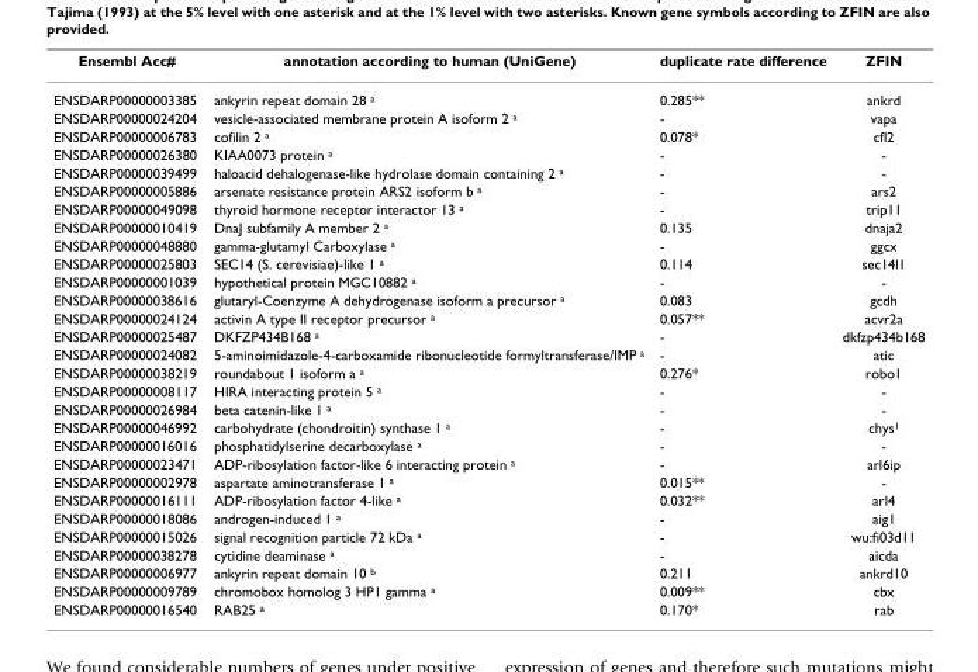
<table><thead><tr><td>Ensembl Acc#</td><td>annotation according to human (UniGene)</td><td>duplicate rate difference</td><td>ZFIN</td></tr></thead><tbody><tr><td>ENSDARP00000003385</td><td>ankyrin repeat domain 28 a</td><td>0.285**</td><td>ankrd</td></tr><tr><td>ENSDARP00000024204</td><td>vesicle-associated membrane protein A isoform 2 a</td><td>-</td><td>vapa</td></tr><tr><td>ENSDARP00000006783</td><td>cofilin 2 a</td><td>0.078*</td><td>cfl2</td></tr><tr><td>ENSDARP00000026380</td><td>KIAA0073 protein a</td><td>-</td><td>-</td></tr><tr><td>ENSDARP00000039499</td><td>haloacid dehalogenase-like hydrolase domain containing 2 a</td><td>-</td><td>-</td></tr><tr><td>ENSDARP00000005886</td><td>arsenate resistance protein ARS2 isoform b a</td><td>-</td><td>ars2</td></tr><tr><td>ENSDARP00000049098</td><td>thyroid hormone receptor interactor 13 a</td><td>-</td><td>trip11</td></tr><tr><td>ENSDARP00000010419</td><td>DnaJ subfamily A member 2 a</td><td>0.135</td><td>dnaja2</td></tr><tr><td>ENSDARP00000048880</td><td>gamma-glutamyl Carboxylase a</td><td>-</td><td>ggcx</td></tr><tr><td>ENSDARP00000025803</td><td>SEC14 (S. cerevisiae)-like 1 a</td><td>0.114</td><td>sec14l1</td></tr><tr><td>ENSDARP00000001039</td><td>hypothetical protein MGC10882 a</td><td>-</td><td>-</td></tr><tr><td>ENSDARP00000038616</td><td>glutaryl-Coenzyme A dehydrogenase isoform a precursor a</td><td>0.083</td><td>gcdh</td></tr><tr><td>ENSDARP00000024124</td><td>activin A type II receptor precursor a</td><td>0.057**</td><td>acvr2a</td></tr><tr><td>ENSDARP00000025487</td><td>DKFZP434B168 a</td><td>-</td><td>dkfzp434b168</td></tr><tr><td>ENSDARP00000024082</td><td>5-aminoimidazole-4-carboxamide ribonucleotide formyltransferase/IMP a</td><td>-</td><td>atic</td></tr><tr><td>ENSDARP00000038219</td><td>roundabout 1 isoform a a</td><td>0.276*</td><td>robo1</td></tr><tr><td>ENSDARP00000008117</td><td>HIRA interacting protein 5 a</td><td>-</td><td>-</td></tr><tr><td>ENSDARP00000026984</td><td>beta catenin-like 1 a</td><td>-</td><td>-</td></tr><tr><td>ENSDARP00000046992</td><td>carbohydrate (chondroitin) synthase 1 a</td><td>-</td><td>chys1</td></tr><tr><td>ENSDARP00000016016</td><td>phosphatidylserine decarboxylase a</td><td>-</td><td>-</td></tr><tr><td>ENSDARP00000023471</td><td>ADP-ribosylation factor-like 6 interacting protein a</td><td>-</td><td>arl6ip</td></tr><tr><td>ENSDARP00000002978</td><td>aspartate aminotransferase 1 a</td><td>0.015**</td><td>-</td></tr><tr><td>ENSDARP00000016111</td><td>ADP-ribosylation factor 4-like a</td><td>0.032**</td><td>arl4</td></tr><tr><td>ENSDARP00000018086</td><td>androgen-induced 1 a</td><td>-</td><td>aig1</td></tr><tr><td>ENSDARP00000015026</td><td>signal recognition particle 72 kDa a</td><td>-</td><td>wu:fi03d11</td></tr><tr><td>ENSDARP00000038278</td><td>cytidine deaminase a</td><td>-</td><td>aicda</td></tr><tr><td>ENSDARP00000006977</td><td>ankyrin repeat domain 10 b</td><td>0.211</td><td>ankrd10</td></tr><tr><td>ENSDARP00000009789</td><td>chromobox homolog 3 HP1 gamma a</td><td>0.009**</td><td>cbx</td></tr><tr><td>ENSDARP00000016540</td><td>RAB25 a</td><td>0.170*</td><td>rab</td></tr></tbody></table>